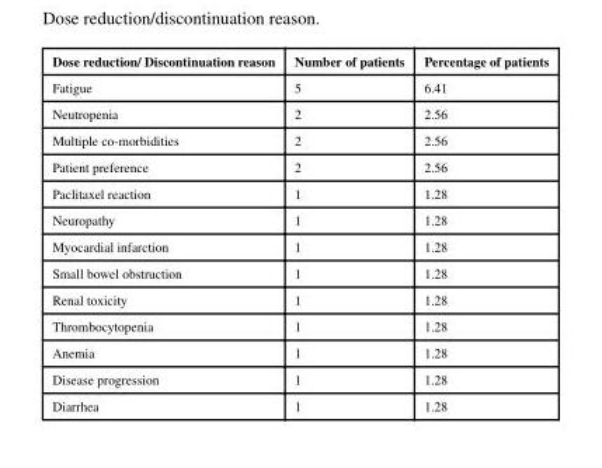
<table><thead><tr><td>Dose reduction/ Discontinuation reason</td><td>Number of patients</td><td>Percentage of patients</td></tr></thead><tbody><tr><td>Fatigue</td><td>5</td><td>6.41</td></tr><tr><td>Neutropenia</td><td>2</td><td>2.56</td></tr><tr><td>Multiple co-morbidities</td><td>2</td><td>2.56</td></tr><tr><td>Patient preference</td><td>2</td><td>2.56</td></tr><tr><td>Paclitaxel reaction</td><td>1</td><td>1.28</td></tr><tr><td>Neuropathy</td><td>1</td><td>1.28</td></tr><tr><td>Myocardial infarction</td><td>1</td><td>1.28</td></tr><tr><td>Small bowel obstruction</td><td>1</td><td>1.28</td></tr><tr><td>Renal toxicity</td><td>1</td><td>1.28</td></tr><tr><td>Thrombocytopenia</td><td>1</td><td>1.28</td></tr><tr><td>Anemia</td><td>1</td><td>1.28</td></tr><tr><td>Disease progression</td><td>1</td><td>1.28</td></tr><tr><td>Diarrhea</td><td>1</td><td>1.28</td></tr></tbody></table>